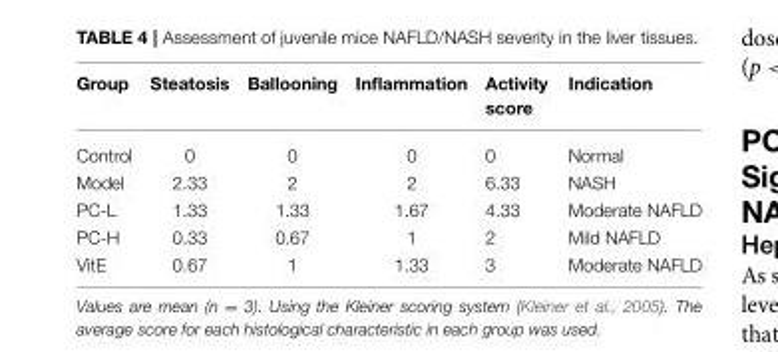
<table><thead><tr><td>Group</td><td>Steatosis</td><td>Ballooning</td><td>Inflammation</td><td>Activity score</td><td>Indication</td></tr></thead><tbody><tr><td>Control</td><td>0</td><td>0</td><td>0</td><td>0</td><td>Normal</td></tr><tr><td>Model</td><td>2.33</td><td>2</td><td>2</td><td>6.33</td><td>NASH</td></tr><tr><td>PC-L</td><td>1.33</td><td>1.33</td><td>1.67</td><td>4.33</td><td>Moderate NAFLD</td></tr><tr><td>PC-H</td><td>0.33</td><td>0.67</td><td>1</td><td>2</td><td>Mild NAFLD</td></tr><tr><td>VitE</td><td>0.67</td><td>1</td><td>1.33</td><td>3</td><td>Moderate NAFLD</td></tr></tbody></table>